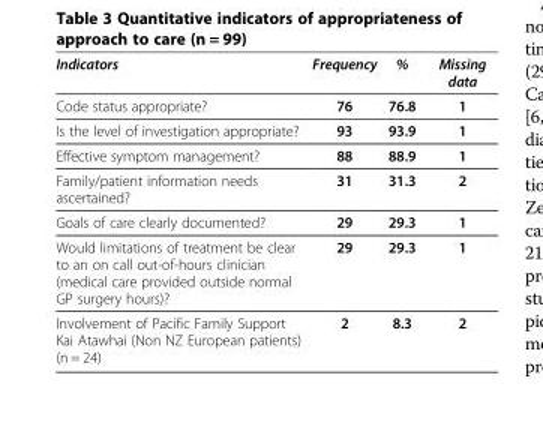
<table><thead><tr><td>Indicators</td><td>Frequency</td><td>%</td><td>Missing data</td></tr></thead><tbody><tr><td>Code status appropriate?</td><td>76</td><td>76.8</td><td>1</td></tr><tr><td>Is the level of investigation appropriate?</td><td>93</td><td>93.9</td><td>1</td></tr><tr><td>Effective symptom management?</td><td>88</td><td>88.9</td><td>1</td></tr><tr><td>Family/patient information needs ascertained?</td><td>31</td><td>31.3</td><td>2</td></tr><tr><td>Goals of care clearly documented?</td><td>29</td><td>29.3</td><td>1</td></tr><tr><td>Would limitations of treatment be clear to an on call out-of-hours clinician (medical care provided outside normal GP surgery hours)?</td><td>29</td><td>29.3</td><td>1</td></tr><tr><td>Involvement of Pacific Family Support Kai Atawhai (Non NZ European patients) (n = 24)</td><td>2</td><td>8.3</td><td>2</td></tr></tbody></table>